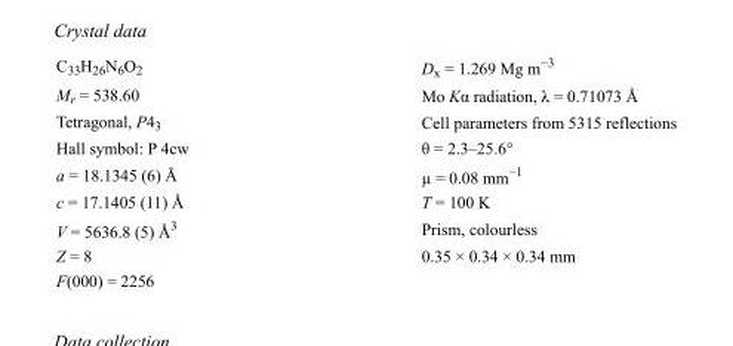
<table><tbody><tr><td>C<sub>33</sub>H<sub>26</sub>N<sub>6</sub>O<sub>2</sub></td><td>D<sub>x</sub> = 1.269 Mg m<sup>−3</sup></td></tr><tr><td>M<sub>r</sub> = 538.60</td><td>Mo Kα radiation, λ = 0.71073 Å</td></tr><tr><td>Tetragonal, P4<sub>3</sub></td><td>Cell parameters from 5315 reflections</td></tr><tr><td>Hall symbol: P 4cw</td><td>θ = 2.3–25.6°</td></tr><tr><td>a = 18.1345 (6) Å</td><td>µ = 0.08 mm<sup>−1</sup></td></tr><tr><td>c = 17.1405 (11) Å</td><td>T = 100 K</td></tr><tr><td>V = 5636.8 (5) Å<sup>3</sup></td><td>Prism, colourless</td></tr><tr><td>Z = 8</td><td>0.35 × 0.34 × 0.34 mm</td></tr><tr><td>F(000) = 2256</td><td></td></tr></tbody></table>